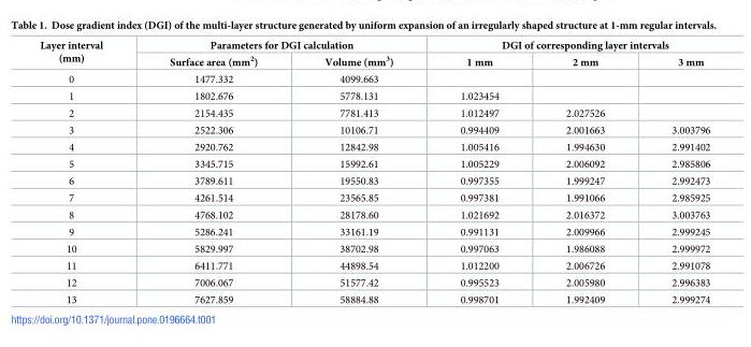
<table><thead><tr><td rowspan="2">Layer interval (mm)</td><td colspan="2">Parameters for DGI calculation</td><td colspan="3">DGI of corresponding layer intervals</td></tr><tr><td>Surface area (mm<sup>2</sup>)</td><td>Volume (mm<sup>3</sup>)</td><td>1 mm</td><td>2 mm</td><td>3 mm</td></tr></thead><tbody><tr><td>0</td><td>1477.332</td><td>4099.663</td><td></td><td></td><td></td></tr><tr><td>1</td><td>1802.676</td><td>5778.131</td><td>1.023454</td><td></td><td></td></tr><tr><td>2</td><td>2154.435</td><td>7781.413</td><td>1.012497</td><td>2.027526</td><td></td></tr><tr><td>3</td><td>2522.306</td><td>10106.71</td><td>0.994409</td><td>2.001663</td><td>3.003796</td></tr><tr><td>4</td><td>2920.762</td><td>12842.98</td><td>1.005416</td><td>1.994630</td><td>2.991402</td></tr><tr><td>5</td><td>3345.715</td><td>15992.61</td><td>1.005229</td><td>2.006092</td><td>2.985806</td></tr><tr><td>6</td><td>3789.611</td><td>19550.83</td><td>0.997355</td><td>1.999247</td><td>2.992473</td></tr><tr><td>7</td><td>4261.514</td><td>23565.85</td><td>0.997381</td><td>1.991066</td><td>2.985925</td></tr><tr><td>8</td><td>4768.102</td><td>28178.60</td><td>1.021692</td><td>2.016372</td><td>3.003763</td></tr><tr><td>9</td><td>5286.241</td><td>33161.19</td><td>0.991131</td><td>2.009966</td><td>2.999245</td></tr><tr><td>10</td><td>5829.997</td><td>38702.98</td><td>0.997063</td><td>1.986088</td><td>2.999972</td></tr><tr><td>11</td><td>6411.771</td><td>44898.54</td><td>1.012200</td><td>2.006726</td><td>2.991078</td></tr><tr><td>12</td><td>7006.067</td><td>51577.42</td><td>0.995523</td><td>2.005980</td><td>2.996383</td></tr><tr><td>13</td><td>7627.859</td><td>58884.88</td><td>0.998701</td><td>1.992409</td><td>2.999274</td></tr></tbody></table>